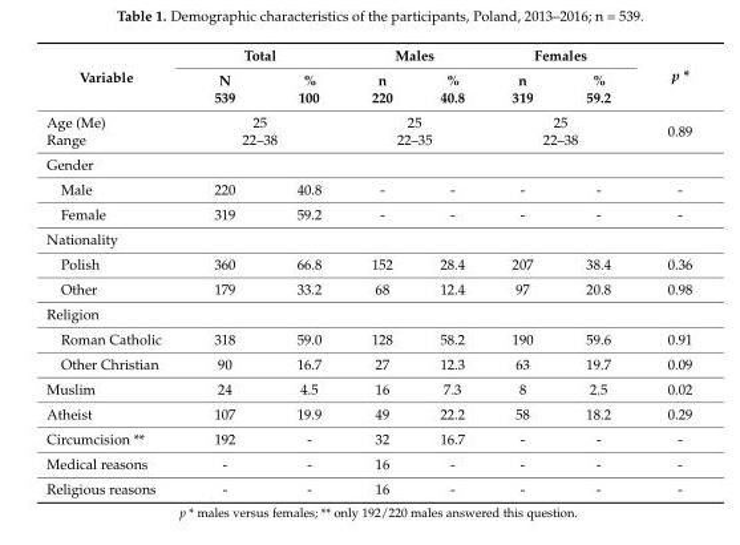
<table><thead><tr><td rowspan="2">Variable</td><td colspan="2">Total</td><td colspan="2">Males</td><td colspan="2">Females</td><td rowspan="2">p *</td></tr><tr><td>N 539</td><td>% 100</td><td>n 220</td><td>% 40.8</td><td>n 319</td><td>% 59.2</td></tr></thead><tbody><tr><td>Age (Me) Range</td><td colspan="2">25 22–38</td><td colspan="2">25 22–35</td><td colspan="2">25 22–38</td><td>0.89</td></tr><tr><td colspan="8">Gender</td></tr><tr><td>Male</td><td>220</td><td>40.8</td><td>-</td><td>-</td><td>-</td><td>-</td><td>-</td></tr><tr><td>Female</td><td>319</td><td>59.2</td><td>-</td><td>-</td><td>-</td><td>-</td><td>-</td></tr><tr><td colspan="8">Nationality</td></tr><tr><td>Polish</td><td>360</td><td>66.8</td><td>152</td><td>28.4</td><td>207</td><td>38.4</td><td>0.36</td></tr><tr><td>Other</td><td>179</td><td>33.2</td><td>68</td><td>12.4</td><td>97</td><td>20.8</td><td>0.98</td></tr><tr><td colspan="8">Religion</td></tr><tr><td>Roman Catholic</td><td>318</td><td>59.0</td><td>128</td><td>58.2</td><td>190</td><td>59.6</td><td>0.91</td></tr><tr><td>Other Christian</td><td>90</td><td>16.7</td><td>27</td><td>12.3</td><td>63</td><td>19.7</td><td>0.09</td></tr><tr><td>Muslim</td><td>24</td><td>4.5</td><td>16</td><td>7.3</td><td>8</td><td>2.5</td><td>0.02</td></tr><tr><td>Atheist</td><td>107</td><td>19.9</td><td>49</td><td>22.2</td><td>58</td><td>18.2</td><td>0.29</td></tr><tr><td>Circumcision **</td><td>192</td><td>-</td><td>32</td><td>16.7</td><td>-</td><td>-</td><td>-</td></tr><tr><td>Medical reasons</td><td>-</td><td>-</td><td>16</td><td>-</td><td>-</td><td>-</td><td>-</td></tr><tr><td>Religious reasons</td><td>-</td><td>-</td><td>16</td><td>-</td><td>-</td><td>-</td><td>-</td></tr></tbody></table>